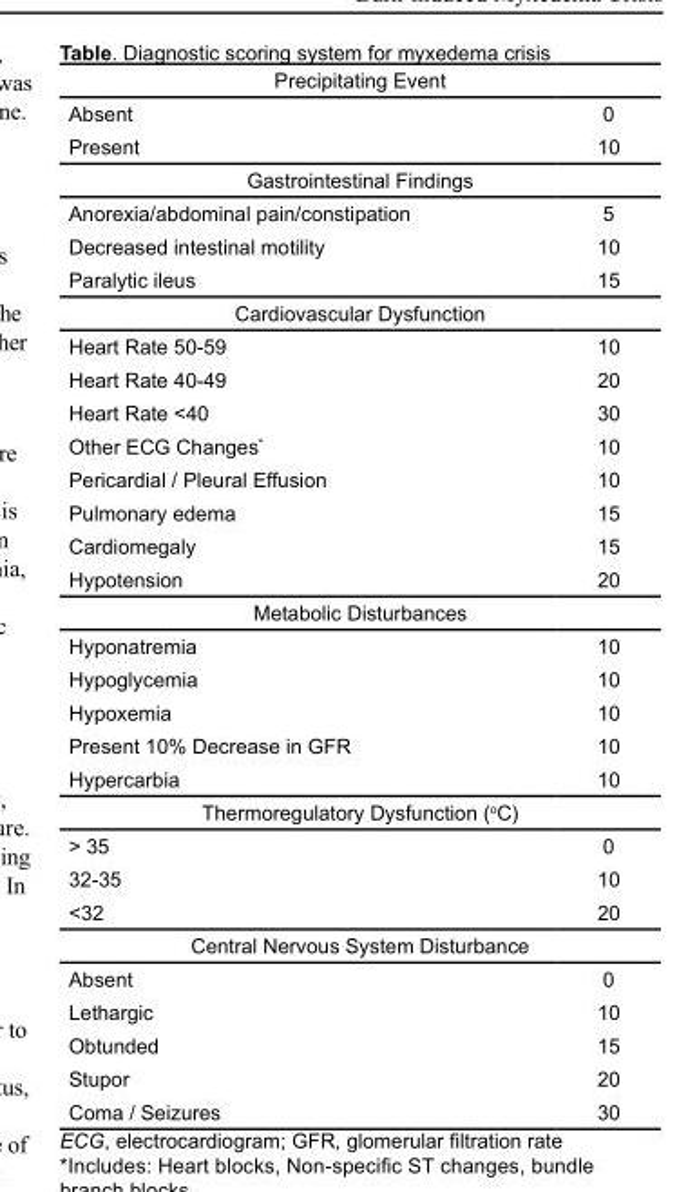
<table><thead><tr><td colspan="2">Precipitating Event</td></tr><tr><td>Absent</td><td>0</td></tr></thead><tbody><tr><td>Present</td><td>10</td></tr><tr><td colspan="2">Gastrointestinal Findings</td></tr><tr><td>Anorexia/abdominal pain/constipation</td><td>5</td></tr><tr><td>Decreased intestinal motility</td><td>10</td></tr><tr><td>Paralytic ileus</td><td>15</td></tr><tr><td colspan="2">Cardiovascular Dysfunction</td></tr><tr><td>Heart Rate 50-59</td><td>10</td></tr><tr><td>Heart Rate 40-49</td><td>20</td></tr><tr><td>Heart Rate &lt;40</td><td>30</td></tr><tr><td>Other ECG Changes*</td><td>10</td></tr><tr><td>Pericardial / Pleural Effusion</td><td>10</td></tr><tr><td>Pulmonary edema</td><td>15</td></tr><tr><td>Cardiomegaly</td><td>15</td></tr><tr><td>Hypotension</td><td>20</td></tr><tr><td colspan="2">Metabolic Disturbances</td></tr><tr><td>Hyponatremia</td><td>10</td></tr><tr><td>Hypoglycemia</td><td>10</td></tr><tr><td>Hypoxemia</td><td>10</td></tr><tr><td>Present 10% Decrease in GFR</td><td>10</td></tr><tr><td>Hypercarbia</td><td>10</td></tr><tr><td colspan="2">Thermoregulatory Dysfunction (°C)</td></tr><tr><td>&gt; 35</td><td>0</td></tr><tr><td>32-35</td><td>10</td></tr><tr><td>&lt;32</td><td>20</td></tr><tr><td colspan="2">Central Nervous System Disturbance</td></tr><tr><td>Absent</td><td>0</td></tr><tr><td>Lethargic</td><td>10</td></tr><tr><td>Obtunded</td><td>15</td></tr><tr><td>Stupor</td><td>20</td></tr><tr><td>Coma / Seizures</td><td>30</td></tr></tbody></table>